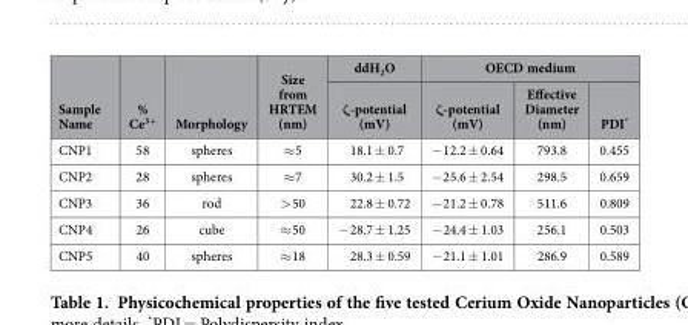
<table><thead><tr><td rowspan="2">Sample Name</td><td rowspan="2">% Ce<sup>3+</sup></td><td rowspan="2">Morphology</td><td rowspan="2">Size from HRTEM (nm)</td><td rowspan="2">ddH<sub>2</sub>O ζ-potential (mV)</td><td colspan="3">OECD medium</td></tr><tr><td>ζ-potential (mV)</td><td>Effective Diameter (nm)</td><td>PDI*</td></tr></thead><tbody><tr><td>CNP1</td><td>58</td><td>spheres</td><td>≈ 5</td><td>18.1 ± 0.7</td><td>− 12.2 ± 0.64</td><td>793.8</td><td>0.455</td></tr><tr><td>CNP2</td><td>28</td><td>spheres</td><td>≈ 7</td><td>30.2 ± 1.5</td><td>− 25.6 ± 2.54</td><td>298.5</td><td>0.659</td></tr><tr><td>CNP3</td><td>36</td><td>rod</td><td>&gt; 50</td><td>22.8 ± 0.72</td><td>− 21.2 ± 0.78</td><td>511.6</td><td>0.809</td></tr><tr><td>CNP4</td><td>26</td><td>cube</td><td>≈ 50</td><td>− 28.7 ± 1.25</td><td>− 24.4 ± 1.03</td><td>256.1</td><td>0.503</td></tr><tr><td>CNP5</td><td>40</td><td>spheres</td><td>≈ 18</td><td>28.3 ± 0.59</td><td>− 21.1 ± 1.01</td><td>286.9</td><td>0.589</td></tr></tbody></table>